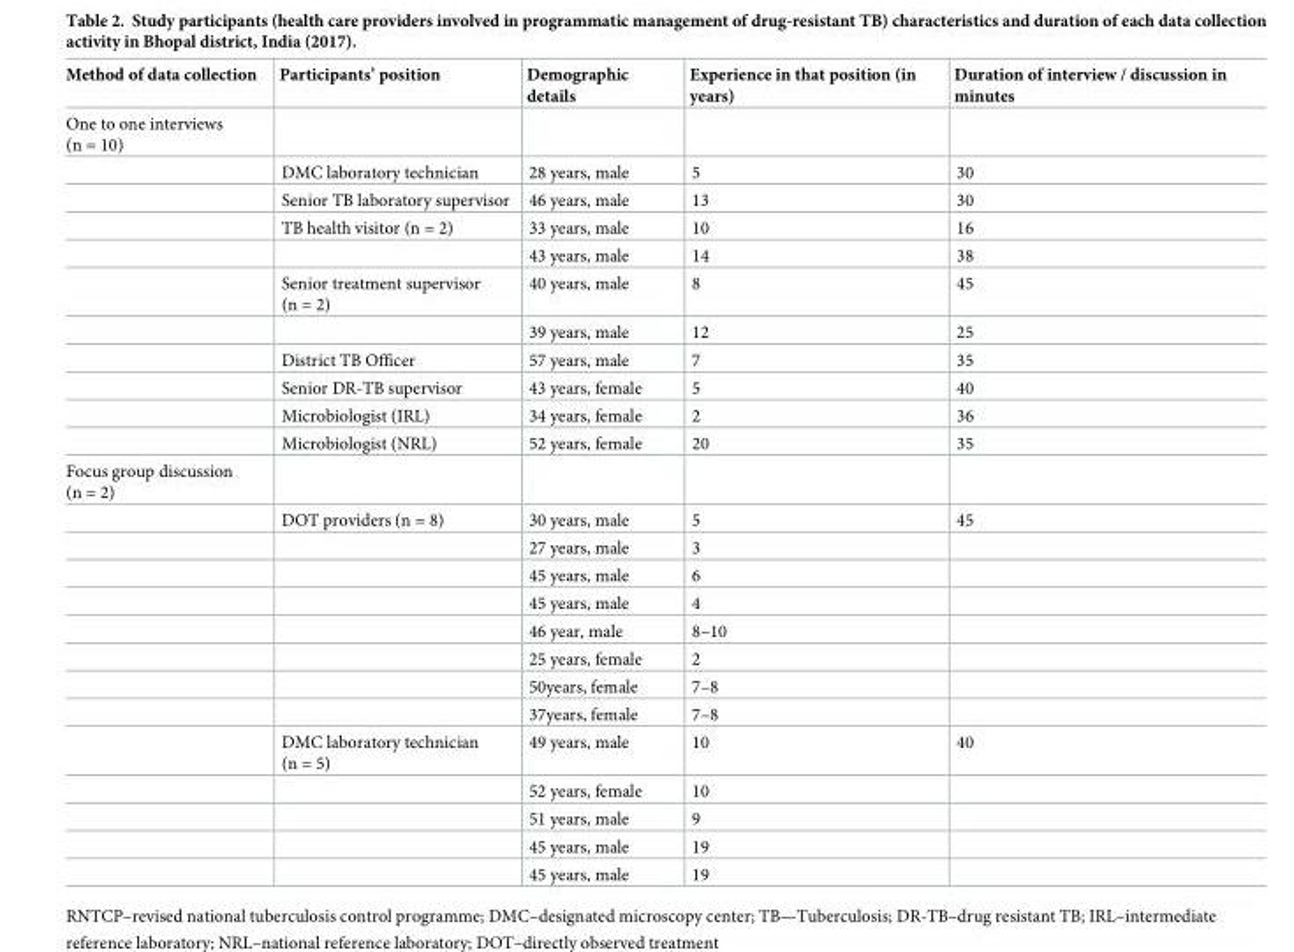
<table><thead><tr><td>Method of data collection</td><td>Participants’ position</td><td>Demographic details</td><td>Experience in that position (in years)</td><td>Duration of interview / discussion in minutes</td></tr></thead><tbody><tr><td colspan="5">One to one interviews (n = 10)</td></tr><tr><td></td><td>DMC laboratory technician</td><td>28 years, male</td><td>5</td><td>30</td></tr><tr><td></td><td>Senior TB laboratory supervisor</td><td>46 years, male</td><td>13</td><td>30</td></tr><tr><td></td><td>TB health visitor (n = 2)</td><td>33 years, male</td><td>10</td><td>16</td></tr><tr><td></td><td></td><td>43 years, male</td><td>14</td><td>38</td></tr><tr><td></td><td>Senior treatment supervisor (n = 2)</td><td>40 years, male</td><td>8</td><td>45</td></tr><tr><td></td><td></td><td>39 years, male</td><td>12</td><td>25</td></tr><tr><td></td><td>District TB Officer</td><td>57 years, male</td><td>7</td><td>35</td></tr><tr><td></td><td>Senior DR-TB supervisor</td><td>43 years, female</td><td>5</td><td>40</td></tr><tr><td></td><td>Microbiologist (IRL)</td><td>34 years, female</td><td>2</td><td>36</td></tr><tr><td></td><td>Microbiologist (NRL)</td><td>52 years, female</td><td>20</td><td>35</td></tr><tr><td colspan="5">Focus group discussion (n = 2)</td></tr><tr><td></td><td>DOT providers (n = 8)</td><td>30 years, male</td><td>5</td><td>45</td></tr><tr><td></td><td></td><td>27 years, male</td><td>3</td><td></td></tr><tr><td></td><td></td><td>45 years, male</td><td>6</td><td></td></tr><tr><td></td><td></td><td>45 years, male</td><td>4</td><td></td></tr><tr><td></td><td></td><td>46 year, male</td><td>8–10</td><td></td></tr><tr><td></td><td></td><td>25 years, female</td><td>2</td><td></td></tr><tr><td></td><td></td><td>50years, female</td><td>7–8</td><td></td></tr><tr><td></td><td></td><td>37years, female</td><td>7–8</td><td></td></tr><tr><td></td><td>DMC laboratory technician (n = 5)</td><td>49 years, male</td><td>10</td><td>40</td></tr><tr><td></td><td></td><td>52 years, female</td><td>10</td><td></td></tr><tr><td></td><td></td><td>51 years, male</td><td>9</td><td></td></tr><tr><td></td><td></td><td>45 years, male</td><td>19</td><td></td></tr><tr><td></td><td></td><td>45 years, male</td><td>19</td><td></td></tr></tbody></table>